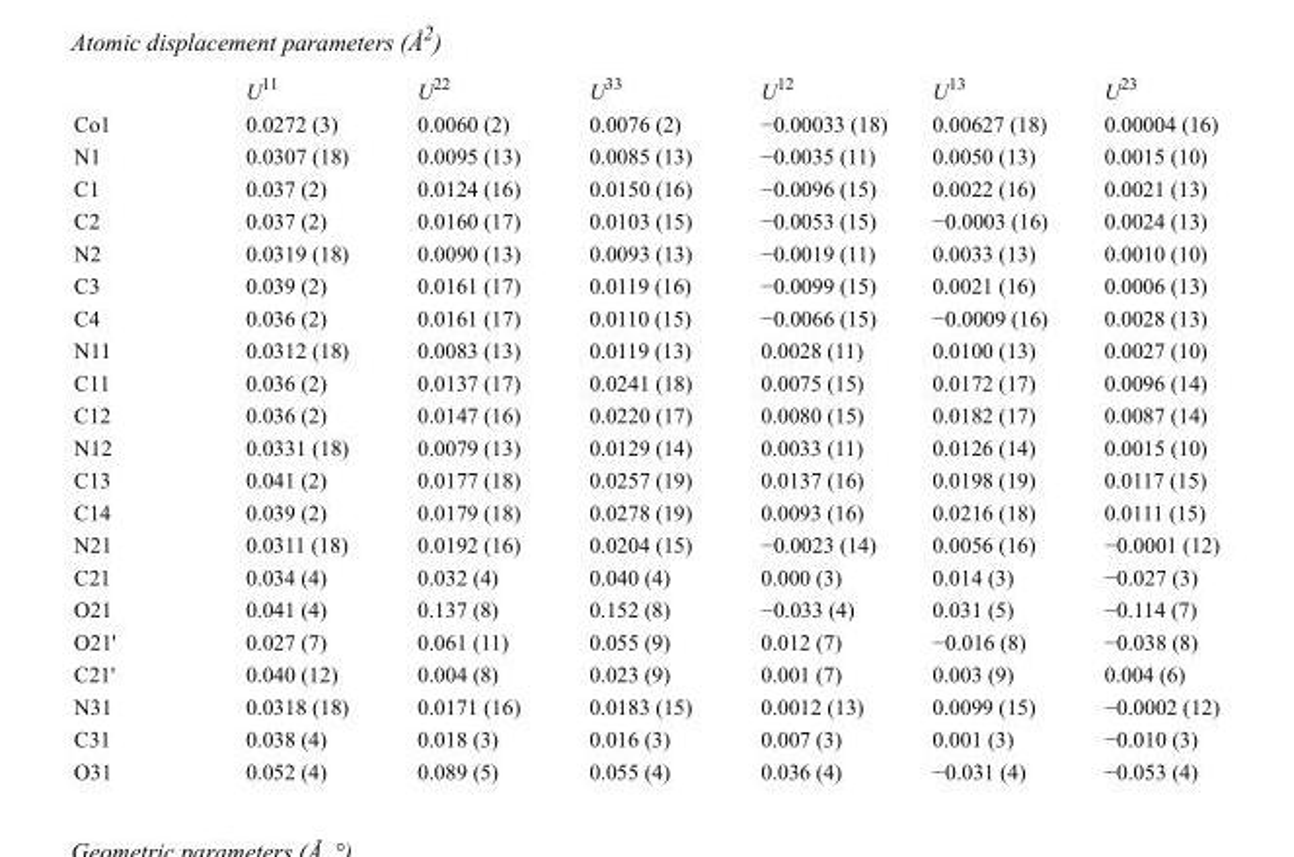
<table><thead><tr><td></td><td>U<sup>11</sup></td><td>U<sup>22</sup></td><td>U<sup>33</sup></td><td>U<sup>12</sup></td><td>U<sup>13</sup></td><td>U<sup>23</sup></td></tr></thead><tbody><tr><td>Co1</td><td>0.0272 (3)</td><td>0.0060 (2)</td><td>0.0076 (2)</td><td>−0.00033 (18)</td><td>0.00627 (18)</td><td>0.00004 (16)</td></tr><tr><td>N1</td><td>0.0307 (18)</td><td>0.0095 (13)</td><td>0.0085 (13)</td><td>−0.0035 (11)</td><td>0.0050 (13)</td><td>0.0015 (10)</td></tr><tr><td>C1</td><td>0.037 (2)</td><td>0.0124 (16)</td><td>0.0150 (16)</td><td>−0.0096 (15)</td><td>0.0022 (16)</td><td>0.0021 (13)</td></tr><tr><td>C2</td><td>0.037 (2)</td><td>0.0160 (17)</td><td>0.0103 (15)</td><td>−0.0053 (15)</td><td>−0.0003 (16)</td><td>0.0024 (13)</td></tr><tr><td>N2</td><td>0.0319 (18)</td><td>0.0090 (13)</td><td>0.0093 (13)</td><td>−0.0019 (11)</td><td>0.0033 (13)</td><td>0.0010 (10)</td></tr><tr><td>C3</td><td>0.039 (2)</td><td>0.0161 (17)</td><td>0.0119 (16)</td><td>−0.0099 (15)</td><td>0.0021 (16)</td><td>0.0006 (13)</td></tr><tr><td>C4</td><td>0.036 (2)</td><td>0.0161 (17)</td><td>0.0110 (15)</td><td>−0.0066 (15)</td><td>−0.0009 (16)</td><td>0.0028 (13)</td></tr><tr><td>N11</td><td>0.0312 (18)</td><td>0.0083 (13)</td><td>0.0119 (13)</td><td>0.0028 (11)</td><td>0.0100 (13)</td><td>0.0027 (10)</td></tr><tr><td>C11</td><td>0.036 (2)</td><td>0.0137 (17)</td><td>0.0241 (18)</td><td>0.0075 (15)</td><td>0.0172 (17)</td><td>0.0096 (14)</td></tr><tr><td>C12</td><td>0.036 (2)</td><td>0.0147 (16)</td><td>0.0220 (17)</td><td>0.0080 (15)</td><td>0.0182 (17)</td><td>0.0087 (14)</td></tr><tr><td>N12</td><td>0.0331 (18)</td><td>0.0079 (13)</td><td>0.0129 (14)</td><td>0.0033 (11)</td><td>0.0126 (14)</td><td>0.0015 (10)</td></tr><tr><td>C13</td><td>0.041 (2)</td><td>0.0177 (18)</td><td>0.0257 (19)</td><td>0.0137 (16)</td><td>0.0198 (19)</td><td>0.0117 (15)</td></tr><tr><td>C14</td><td>0.039 (2)</td><td>0.0179 (18)</td><td>0.0278 (19)</td><td>0.0093 (16)</td><td>0.0216 (18)</td><td>0.0111 (15)</td></tr><tr><td>N21</td><td>0.0311 (18)</td><td>0.0192 (16)</td><td>0.0204 (15)</td><td>−0.0023 (14)</td><td>0.0056 (16)</td><td>−0.0001 (12)</td></tr><tr><td>C21</td><td>0.034 (4)</td><td>0.032 (4)</td><td>0.040 (4)</td><td>0.000 (3)</td><td>0.014 (3)</td><td>−0.027 (3)</td></tr><tr><td>O21</td><td>0.041 (4)</td><td>0.137 (8)</td><td>0.152 (8)</td><td>−0.033 (4)</td><td>0.031 (5)</td><td>−0.114 (7)</td></tr><tr><td>O21&#x27;</td><td>0.027 (7)</td><td>0.061 (11)</td><td>0.055 (9)</td><td>0.012 (7)</td><td>−0.016 (8)</td><td>−0.038 (8)</td></tr><tr><td>C21&#x27;</td><td>0.040 (12)</td><td>0.004 (8)</td><td>0.023 (9)</td><td>0.001 (7)</td><td>0.003 (9)</td><td>0.004 (6)</td></tr><tr><td>N31</td><td>0.0318 (18)</td><td>0.0171 (16)</td><td>0.0183 (15)</td><td>0.0012 (13)</td><td>0.0099 (15)</td><td>−0.0002 (12)</td></tr><tr><td>C31</td><td>0.038 (4)</td><td>0.018 (3)</td><td>0.016 (3)</td><td>0.007 (3)</td><td>0.001 (3)</td><td>−0.010 (3)</td></tr><tr><td>O31</td><td>0.052 (4)</td><td>0.089 (5)</td><td>0.055 (4)</td><td>0.036 (4)</td><td>−0.031 (4)</td><td>−0.053 (4)</td></tr></tbody></table>